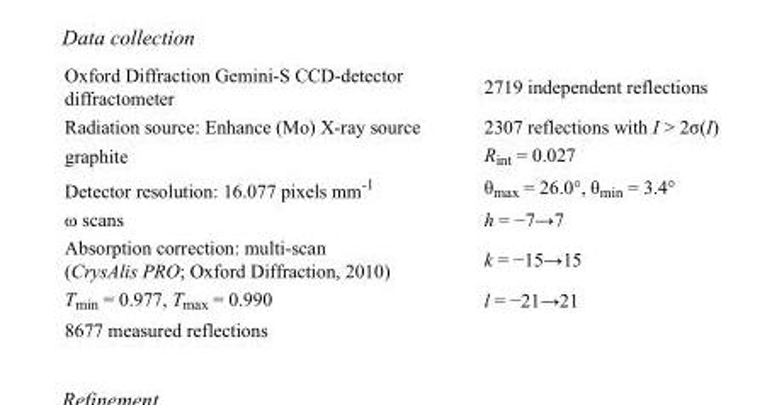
<table><tbody><tr><td>Oxford Diffraction Gemini-S CCD-detector diffractometer</td><td>2719 independent reflections</td></tr><tr><td>Radiation source: Enhance (Mo) X-ray source</td><td>2307 reflections with I &gt; 2σ(I)</td></tr><tr><td>graphite</td><td>R<sub>int</sub> = 0.027</td></tr><tr><td>Detector resolution: 16.077 pixels mm<sup>-1</sup></td><td>θ<sub>max</sub> = 26.0°, θ<sub>min</sub> = 3.4°</td></tr><tr><td>ω scans</td><td>h = −7→7</td></tr><tr><td>Absorption correction: multi-scan (CrysAlis PRO; Oxford Diffraction, 2010)</td><td>k = −15→15</td></tr><tr><td>T<sub>min</sub> = 0.977, T<sub>max</sub> = 0.990</td><td>l = −21→21</td></tr><tr><td>8677 measured reflections</td><td></td></tr></tbody></table>